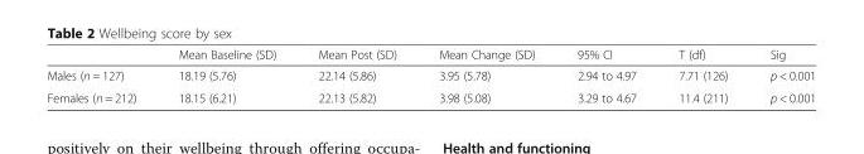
<table><thead><tr><td></td><td>Mean Baseline (SD)</td><td>Mean Post (SD)</td><td>Mean Change (SD)</td><td>95% CI</td><td>T (df)</td><td>Sig</td></tr></thead><tbody><tr><td>Males (n = 127)</td><td>18.19 (5.76)</td><td>22.14 (5.86)</td><td>3.95 (5.78)</td><td>2.94 to 4.97</td><td>7.71 (126)</td><td>p &lt; 0.001</td></tr><tr><td>Females (n = 212)</td><td>18.15 (6.21)</td><td>22.13 (5.82)</td><td>3.98 (5.08)</td><td>3.29 to 4.67</td><td>11.4 (211)</td><td>p &lt; 0.001</td></tr></tbody></table>